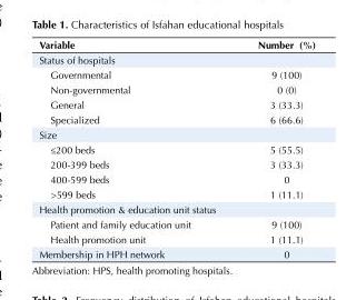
<table><tbody><tr><td>Variable</td><td>Number (%)</td></tr><tr><td colspan="2">Status of hospitals</td></tr><tr><td>Governmental</td><td>9 (100)</td></tr><tr><td>Non-governmental</td><td>0 (0)</td></tr><tr><td>General</td><td>3 (33.3)</td></tr><tr><td>Specialized</td><td>6 (66.6)</td></tr><tr><td colspan="2">Size</td></tr><tr><td>≤200 beds</td><td>5 (55.5)</td></tr><tr><td>200-399 beds</td><td>3 (33.3)</td></tr><tr><td>400-599 beds</td><td>0</td></tr><tr><td>&gt;599 beds</td><td>1 (11.1)</td></tr><tr><td colspan="2">Health promotion &amp; education unit status</td></tr><tr><td>Patient and family education unit</td><td>9 (100)</td></tr><tr><td>Health promotion unit</td><td>1 (11.1)</td></tr><tr><td>Membership in HPH network</td><td>0</td></tr></tbody></table>